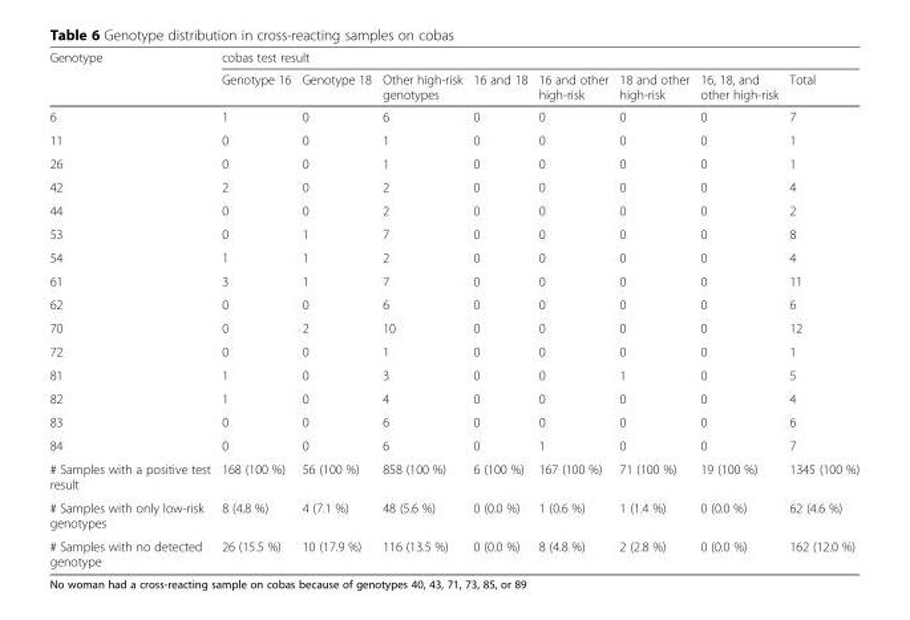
<table><thead><tr><td rowspan="2">Genotype</td><td colspan="8">cobas test result</td></tr><tr><td>Genotype 16</td><td>Genotype 18</td><td>Other high-risk genotypes</td><td>16 and 18</td><td>16 and other high-risk</td><td>18 and other high-risk</td><td>16, 18, and other high-risk</td><td>Total</td></tr></thead><tbody><tr><td>6</td><td>1</td><td>0</td><td>6</td><td>0</td><td>0</td><td>0</td><td>0</td><td>7</td></tr><tr><td>11</td><td>0</td><td>0</td><td>1</td><td>0</td><td>0</td><td>0</td><td>0</td><td>1</td></tr><tr><td>26</td><td>0</td><td>0</td><td>1</td><td>0</td><td>0</td><td>0</td><td>0</td><td>1</td></tr><tr><td>42</td><td>2</td><td>0</td><td>2</td><td>0</td><td>0</td><td>0</td><td>0</td><td>4</td></tr><tr><td>44</td><td>0</td><td>0</td><td>2</td><td>0</td><td>0</td><td>0</td><td>0</td><td>2</td></tr><tr><td>53</td><td>0</td><td>1</td><td>7</td><td>0</td><td>0</td><td>0</td><td>0</td><td>8</td></tr><tr><td>54</td><td>1</td><td>1</td><td>2</td><td>0</td><td>0</td><td>0</td><td>0</td><td>4</td></tr><tr><td>61</td><td>3</td><td>1</td><td>7</td><td>0</td><td>0</td><td>0</td><td>0</td><td>11</td></tr><tr><td>62</td><td>0</td><td>0</td><td>6</td><td>0</td><td>0</td><td>0</td><td>0</td><td>6</td></tr><tr><td>70</td><td>0</td><td>2</td><td>10</td><td>0</td><td>0</td><td>0</td><td>0</td><td>12</td></tr><tr><td>72</td><td>0</td><td>0</td><td>1</td><td>0</td><td>0</td><td>0</td><td>0</td><td>1</td></tr><tr><td>81</td><td>1</td><td>0</td><td>3</td><td>0</td><td>0</td><td>1</td><td>0</td><td>5</td></tr><tr><td>82</td><td>1</td><td>0</td><td>4</td><td>0</td><td>0</td><td>0</td><td>0</td><td>4</td></tr><tr><td>83</td><td>0</td><td>0</td><td>6</td><td>0</td><td>0</td><td>0</td><td>0</td><td>6</td></tr><tr><td>84</td><td>0</td><td>0</td><td>6</td><td>0</td><td>1</td><td>0</td><td>0</td><td>7</td></tr><tr><td># Samples with a positive test result</td><td>168 (100 %)</td><td>56 (100 %)</td><td>858 (100 %)</td><td>6 (100 %)</td><td>167 (100 %)</td><td>71 (100 %)</td><td>19 (100 %)</td><td>1345 (100 %)</td></tr><tr><td># Samples with only low-risk genotypes</td><td>8 (4.8 %)</td><td>4 (7.1 %)</td><td>48 (5.6 %)</td><td>0 (0.0 %)</td><td>1 (0.6 %)</td><td>1 (1.4 %)</td><td>0 (0.0 %)</td><td>62 (4.6 %)</td></tr><tr><td># Samples with no detected genotype</td><td>26 (15.5 %)</td><td>10 (17.9 %)</td><td>116 (13.5 %)</td><td>0 (0.0 %)</td><td>8 (4.8 %)</td><td>2 (2.8 %)</td><td>0 (0.0 %)</td><td>162 (12.0 %)</td></tr></tbody></table>